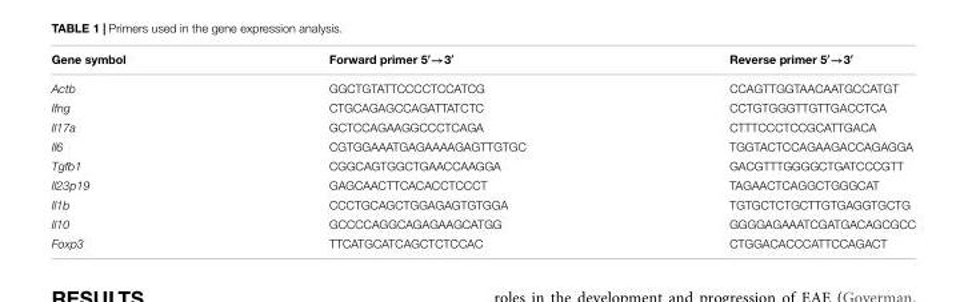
<table><thead><tr><td>Gene symbol</td><td>Forward primer 5′→3′</td><td>Reverse primer 5′→3′</td></tr></thead><tbody><tr><td>Actb</td><td>GGCTGTATTCCCCTCCATCG</td><td>CCAGTTGGTAACAATGCCATGT</td></tr><tr><td>Ifng</td><td>CTGCAGAGCCAGATTATCTC</td><td>CCTGTGGGTTGTTGACCTCA</td></tr><tr><td>Il17a</td><td>GCTCCAGAAGGCCCTCAGA</td><td>CTTTCCCTCCGCATTGACA</td></tr><tr><td>Il6</td><td>CGTGGAAATGAGAAAAGAGTTGTGC</td><td>TGGTACTCCAGAAGACCAGAGGA</td></tr><tr><td>Tgfb1</td><td>CGGCAGTGGCTGAACCAAGGA</td><td>GACGTTTGGGGCTGATCCCGTT</td></tr><tr><td>Il23p19</td><td>GAGCAACTTCACACCTCCCT</td><td>TAGAACTCAGGCTGGGCAT</td></tr><tr><td>Il1b</td><td>CCCTGCAGCTGGAGAGTGTGGA</td><td>TGTGCTCTGCTTGTGAGGTGCTG</td></tr><tr><td>Il10</td><td>GCCCCAGGCAGAGAAGCATGG</td><td>GGGGAGAAATCGATGACAGCGCC</td></tr><tr><td>Foxp3</td><td>TTCATGCATCAGCTCTCCAC</td><td>CTGGACACCCATTCCAGACT</td></tr></tbody></table>